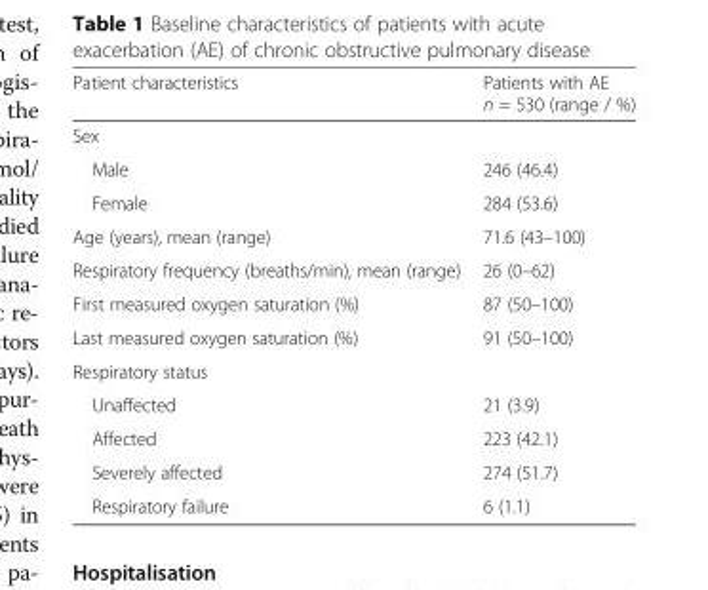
<table><thead><tr><td>Patient characteristics</td><td>Patients with AE n = 530 (range / %)</td></tr></thead><tbody><tr><td colspan="2">Sex</td></tr><tr><td>Male</td><td>246 (46.4)</td></tr><tr><td>Female</td><td>284 (53.6)</td></tr><tr><td>Age (years), mean (range)</td><td>71.6 (43–100)</td></tr><tr><td>Respiratory frequency (breaths/min), mean (range)</td><td>26 (0–62)</td></tr><tr><td>First measured oxygen saturation (%)</td><td>87 (50–100)</td></tr><tr><td>Last measured oxygen saturation (%)</td><td>91 (50–100)</td></tr><tr><td colspan="2">Respiratory status</td></tr><tr><td>Unaffected</td><td>21 (3.9)</td></tr><tr><td>Affected</td><td>223 (42.1)</td></tr><tr><td>Severely affected</td><td>274 (51.7)</td></tr><tr><td>Respiratory failure</td><td>6 (1.1)</td></tr></tbody></table>